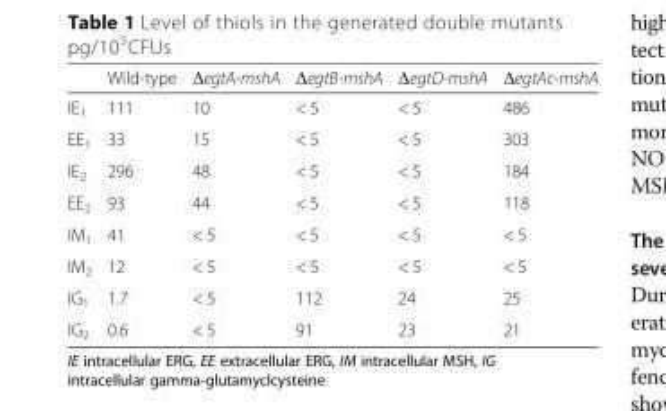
<table><thead><tr><td></td><td>Wild-type</td><td>ΔegtA-mshA</td><td>ΔegtB-mshA</td><td>ΔegtD-mshA</td><td>ΔegtAc-mshA</td></tr></thead><tbody><tr><td>IE<sub>1</sub></td><td>111</td><td>10</td><td>&lt; 5</td><td>&lt; 5</td><td>486</td></tr><tr><td>EE<sub>1</sub></td><td>33</td><td>15</td><td>&lt; 5</td><td>&lt; 5</td><td>303</td></tr><tr><td>IE<sub>2</sub></td><td>296</td><td>48</td><td>&lt; 5</td><td>&lt; 5</td><td>184</td></tr><tr><td>EE<sub>2</sub></td><td>93</td><td>44</td><td>&lt; 5</td><td>&lt; 5</td><td>118</td></tr><tr><td>IM<sub>1</sub></td><td>41</td><td>&lt; 5</td><td>&lt; 5</td><td>&lt; 5</td><td>&lt; 5</td></tr><tr><td>IM<sub>2</sub></td><td>12</td><td>&lt; 5</td><td>&lt; 5</td><td>&lt; 5</td><td>&lt; 5</td></tr><tr><td>IG<sub>1</sub></td><td>1.7</td><td>&lt; 5</td><td>112</td><td>24</td><td>25</td></tr><tr><td>IG<sub>2</sub></td><td>0.6</td><td>&lt; 5</td><td>91</td><td>23</td><td>21</td></tr></tbody></table>